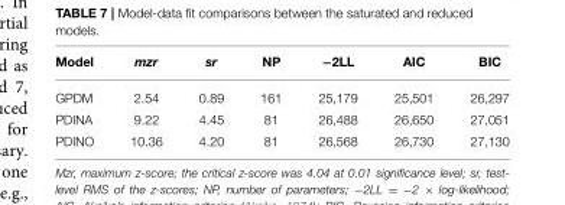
<table><thead><tr><td>Model</td><td>mzr</td><td>sr</td><td>NP</td><td>−2LL</td><td>AIC</td><td>BIC</td></tr></thead><tbody><tr><td>GPDM</td><td>2.54</td><td>0.89</td><td>161</td><td>25,179</td><td>25,501</td><td>26,297</td></tr><tr><td>PDINA</td><td>9.22</td><td>4.45</td><td>81</td><td>26,488</td><td>26,650</td><td>27,051</td></tr><tr><td>PDINO</td><td>10.36</td><td>4.20</td><td>81</td><td>26,568</td><td>26,730</td><td>27,130</td></tr></tbody></table>